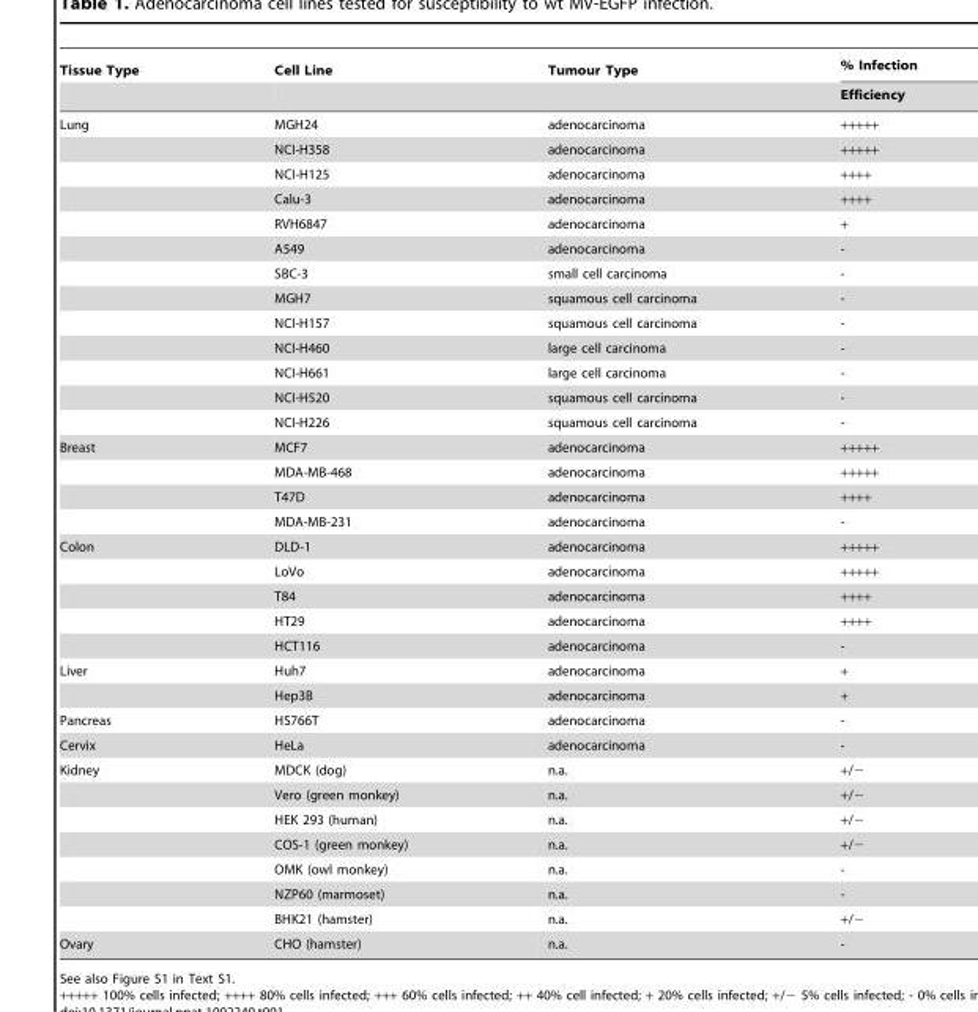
<table><thead><tr><td rowspan="2">Tissue Type</td><td rowspan="2">Cell Line</td><td rowspan="2">Tumour Type</td><td rowspan="2">% Infection Efficiency</td></tr><tr></tr></thead><tbody><tr><td rowspan="13">Lung</td><td>MGH24</td><td>adenocarcinoma</td><td>+++++</td></tr><tr><td>NCI-H358</td><td>adenocarcinoma</td><td>+++++</td></tr><tr><td>NCI-H125</td><td>adenocarcinoma</td><td>++++</td></tr><tr><td>Calu-3</td><td>adenocarcinoma</td><td>++++</td></tr><tr><td>RVH6847</td><td>adenocarcinoma</td><td>+</td></tr><tr><td>A549</td><td>adenocarcinoma</td><td>-</td></tr><tr><td>SBC-3</td><td>small cell carcinoma</td><td>-</td></tr><tr><td>MGH7</td><td>squamous cell carcinoma</td><td>-</td></tr><tr><td>NCI-H157</td><td>squamous cell carcinoma</td><td>-</td></tr><tr><td>NCI-H460</td><td>large cell carcinoma</td><td>-</td></tr><tr><td>NCI-H661</td><td>large cell carcinoma</td><td>-</td></tr><tr><td>NCI-H520</td><td>squamous cell carcinoma</td><td>-</td></tr><tr><td>NCI-H226</td><td>squamous cell carcinoma</td><td>-</td></tr><tr><td rowspan="4">Breast</td><td>MCF7</td><td>adenocarcinoma</td><td>+++++</td></tr><tr><td>MDA-MB-468</td><td>adenocarcinoma</td><td>+++++</td></tr><tr><td>T47D</td><td>adenocarcinoma</td><td>++++</td></tr><tr><td>MDA-MB-231</td><td>adenocarcinoma</td><td>-</td></tr><tr><td rowspan="5">Colon</td><td>DLD-1</td><td>adenocarcinoma</td><td>+++++</td></tr><tr><td>LoVo</td><td>adenocarcinoma</td><td>+++++</td></tr><tr><td>T84</td><td>adenocarcinoma</td><td>++++</td></tr><tr><td>HT29</td><td>adenocarcinoma</td><td>++++</td></tr><tr><td>HCT116</td><td>adenocarcinoma</td><td>-</td></tr><tr><td rowspan="2">Liver</td><td>Huh7</td><td>adenocarcinoma</td><td>+</td></tr><tr><td>Hep3B</td><td>adenocarcinoma</td><td>+</td></tr><tr><td>Pancreas</td><td>HS766T</td><td>adenocarcinoma</td><td>-</td></tr><tr><td>Cervix</td><td>HeLa</td><td>adenocarcinoma</td><td>-</td></tr><tr><td rowspan="7">Kidney</td><td>MDCK (dog)</td><td>n.a.</td><td>+/−</td></tr><tr><td>Vero (green monkey)</td><td>n.a.</td><td>+/−</td></tr><tr><td>HEK 293 (human)</td><td>n.a.</td><td>+/−</td></tr><tr><td>COS-1 (green monkey)</td><td>n.a.</td><td>+/−</td></tr><tr><td>OMK (owl monkey)</td><td>n.a.</td><td>-</td></tr><tr><td>NZP60 (marmoset)</td><td>n.a.</td><td>-</td></tr><tr><td>BHK21 (hamster)</td><td>n.a.</td><td>+/−</td></tr><tr><td>Ovary</td><td>CHO (hamster)</td><td>n.a.</td><td>-</td></tr></tbody></table>